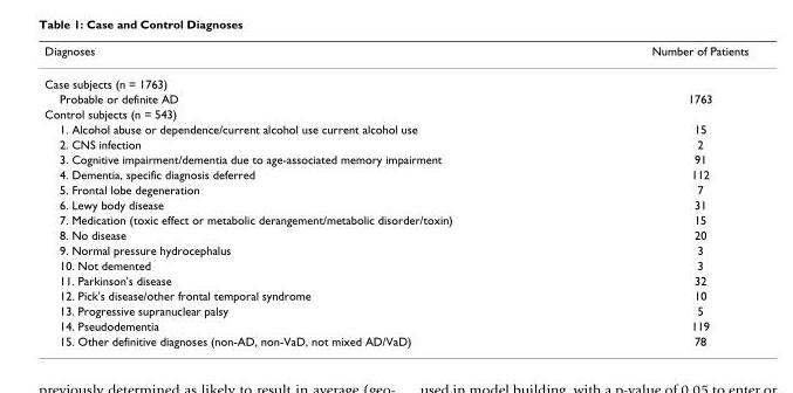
<table><thead><tr><td>Diagnoses</td><td>Number of Patients</td></tr></thead><tbody><tr><td colspan="2">Case subjects (n = 1763)</td></tr><tr><td>Probable or definite AD</td><td>1763</td></tr><tr><td colspan="2">Control subjects (n = 543)</td></tr><tr><td>1. Alcohol abuse or dependence/current alcohol use current alcohol use</td><td>15</td></tr><tr><td>2. CNS infection</td><td>2</td></tr><tr><td>3. Cognitive impairment/dementia due to age-associated memory impairment</td><td>91</td></tr><tr><td>4. Dementia, specific diagnosis deferred</td><td>112</td></tr><tr><td>5. Frontal lobe degeneration</td><td>7</td></tr><tr><td>6. Lewy body disease</td><td>31</td></tr><tr><td>7. Medication (toxic effect or metabolic derangement/metabolic disorder/toxin)</td><td>15</td></tr><tr><td>8. No disease</td><td>20</td></tr><tr><td>9. Normal pressure hydrocephalus</td><td>3</td></tr><tr><td>10. Not demented</td><td>3</td></tr><tr><td>11. Parkinson&#x27;s disease</td><td>32</td></tr><tr><td>12. Pick&#x27;s disease/other frontal temporal syndrome</td><td>10</td></tr><tr><td>13. Progressive supranuclear palsy</td><td>5</td></tr><tr><td>14. Pseudodementia</td><td>119</td></tr><tr><td>15. Other definitive diagnoses (non-AD, non-VaD, not mixed AD/VaD)</td><td>78</td></tr></tbody></table>